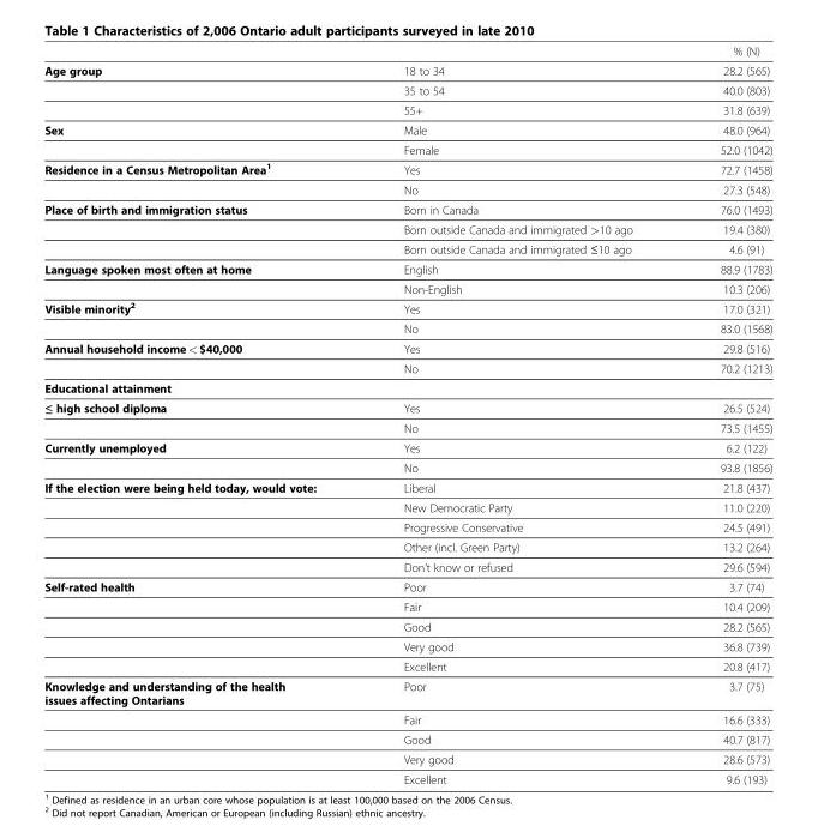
<table><thead><tr><td></td><td></td><td>% (N)</td></tr></thead><tbody><tr><td rowspan="3">Age group</td><td>18 to 34</td><td>28.2 (565)</td></tr><tr><td>35 to 54</td><td>40.0 (803)</td></tr><tr><td>55+</td><td>31.8 (639)</td></tr><tr><td rowspan="2">Sex</td><td>Male</td><td>48.0 (964)</td></tr><tr><td>Female</td><td>52.0 (1042)</td></tr><tr><td rowspan="2">Residence in a Census Metropolitan Area<sup>1</sup></td><td>Yes</td><td>72.7 (1458)</td></tr><tr><td>No</td><td>27.3 (548)</td></tr><tr><td rowspan="3">Place of birth and immigration status</td><td>Born in Canada</td><td>76.0 (1493)</td></tr><tr><td>Born outside Canada and immigrated &gt;10 ago</td><td>19.4 (380)</td></tr><tr><td>Born outside Canada and immigrated ≤10 ago</td><td>4.6 (91)</td></tr><tr><td rowspan="2">Language spoken most often at home</td><td>English</td><td>88.9 (1783)</td></tr><tr><td>Non-English</td><td>10.3 (206)</td></tr><tr><td rowspan="2">Visible minority<sup>2</sup></td><td>Yes</td><td>17.0 (321)</td></tr><tr><td>No</td><td>83.0 (1568)</td></tr><tr><td rowspan="2">Annual household income &lt; $40,000</td><td>Yes</td><td>29.8 (516)</td></tr><tr><td>No</td><td>70.2 (1213)</td></tr><tr><td colspan="3">Educational attainment</td></tr><tr><td rowspan="2">≤ high school diploma</td><td>Yes</td><td>26.5 (524)</td></tr><tr><td>No</td><td>73.5 (1455)</td></tr><tr><td rowspan="2">Currently unemployed</td><td>Yes</td><td>6.2 (122)</td></tr><tr><td>No</td><td>93.8 (1856)</td></tr><tr><td rowspan="5">If the election were being held today, would vote:</td><td>Liberal</td><td>21.8 (437)</td></tr><tr><td>New Democratic Party</td><td>11.0 (220)</td></tr><tr><td>Progressive Conservative</td><td>24.5 (491)</td></tr><tr><td>Other (incl. Green Party)</td><td>13.2 (264)</td></tr><tr><td>Don’t know or refused</td><td>29.6 (594)</td></tr><tr><td rowspan="5">Self-rated health</td><td>Poor</td><td>3.7 (74)</td></tr><tr><td>Fair</td><td>10.4 (209)</td></tr><tr><td>Good</td><td>28.2 (565)</td></tr><tr><td>Very good</td><td>36.8 (739)</td></tr><tr><td>Excellent</td><td>20.8 (417)</td></tr><tr><td rowspan="5">Knowledge and understanding of the health issues affecting Ontarians</td><td>Poor</td><td>3.7 (75)</td></tr><tr><td>Fair</td><td>16.6 (333)</td></tr><tr><td>Good</td><td>40.7 (817)</td></tr><tr><td>Very good</td><td>28.6 (573)</td></tr><tr><td>Excellent</td><td>9.6 (193)</td></tr></tbody></table>